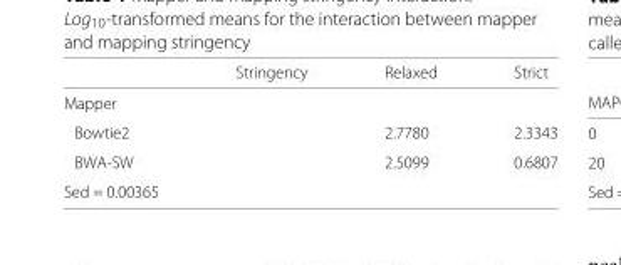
<table><thead><tr><td></td><td>Stringency</td><td>Relaxed</td><td>Strict</td></tr></thead><tbody><tr><td colspan="4">Mapper</td></tr><tr><td>Bowtie2</td><td></td><td>2.7780</td><td>2.3343</td></tr><tr><td>BWA-SW</td><td></td><td>2.5099</td><td>0.6807</td></tr><tr><td>Sed = 0.00365</td><td></td><td></td><td></td></tr></tbody></table>